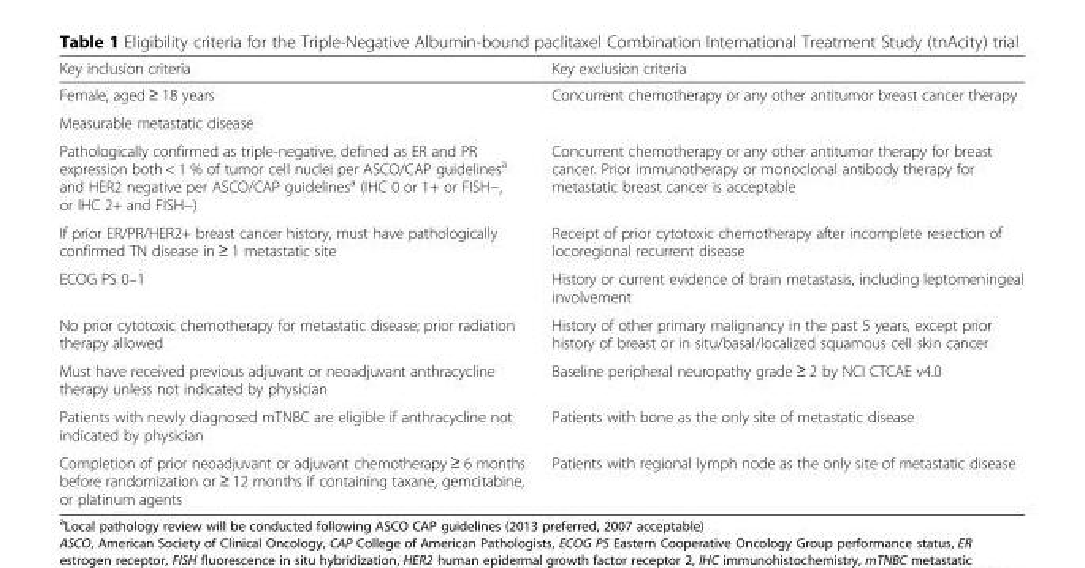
<table><thead><tr><td>Key inclusion criteria</td><td>Key exclusion criteria</td></tr></thead><tbody><tr><td>Female, aged ≥ 18 years</td><td rowspan="2">Concurrent chemotherapy or any other antitumor breast cancer therapy</td></tr><tr><td>Measurable metastatic disease</td></tr><tr><td>Pathologically confirmed as triple-negative, defined as ER and PR expression both &lt; 1 % of tumor cell nuclei per ASCO/CAP guidelines<sup>a</sup> and HER2 negative per ASCO/CAP guidelines<sup>a</sup> (IHC 0 or 1+ or FISH−, or IHC 2+ and FISH−)</td><td>Concurrent chemotherapy or any other antitumor therapy for breast cancer. Prior immunotherapy or monoclonal antibody therapy for metastatic breast cancer is acceptable</td></tr><tr><td>If prior ER/PR/HER2+ breast cancer history, must have pathologically confirmed TN disease in ≥ 1 metastatic site</td><td>Receipt of prior cytotoxic chemotherapy after incomplete resection of locoregional recurrent disease</td></tr><tr><td>ECOG PS 0–1</td><td>History or current evidence of brain metastasis, including leptomeningeal involvement</td></tr><tr><td>No prior cytotoxic chemotherapy for metastatic disease; prior radiation therapy allowed</td><td>History of other primary malignancy in the past 5 years, except prior history of breast or in situ/basal/localized squamous cell skin cancer</td></tr><tr><td>Must have received previous adjuvant or neoadjuvant anthracycline therapy unless not indicated by physician</td><td>Baseline peripheral neuropathy grade ≥ 2 by NCI CTCAE v4.0</td></tr><tr><td>Patients with newly diagnosed mTNBC are eligible if anthracycline not indicated by physician</td><td>Patients with bone as the only site of metastatic disease</td></tr><tr><td>Completion of prior neoadjuvant or adjuvant chemotherapy ≥ 6 months before randomization or ≥ 12 months if containing taxane, gemcitabine, or platinum agents</td><td>Patients with regional lymph node as the only site of metastatic disease</td></tr></tbody></table>